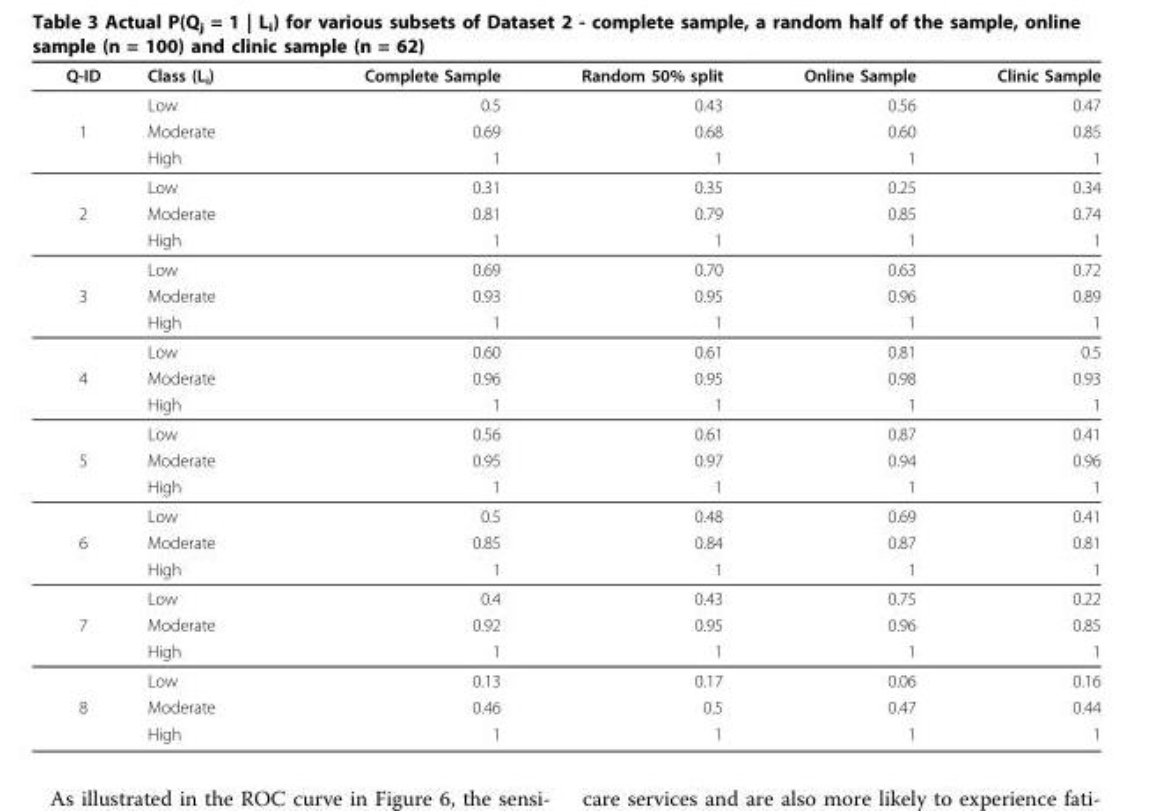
<table><thead><tr><td>Q-ID</td><td>Class (L<sub>i</sub>)</td><td>Complete Sample</td><td>Random 50% split</td><td>Online Sample</td><td>Clinic Sample</td></tr></thead><tbody><tr><td></td><td>Low</td><td>0.5</td><td>0.43</td><td>0.56</td><td>0.47</td></tr><tr><td rowspan="3">1</td><td>Moderate</td><td>0.69</td><td>0.68</td><td>0.60</td><td>0.85</td></tr><tr><td>High</td><td>1</td><td>1</td><td>1</td><td>1</td></tr><tr><td>Low</td><td>0.31</td><td>0.35</td><td>0.25</td><td>0.34</td></tr><tr><td rowspan="3">2</td><td>Moderate</td><td>0.81</td><td>0.79</td><td>0.85</td><td>0.74</td></tr><tr><td>High</td><td>1</td><td>1</td><td>1</td><td>1</td></tr><tr><td>Low</td><td>0.69</td><td>0.70</td><td>0.63</td><td>0.72</td></tr><tr><td rowspan="3">3</td><td>Moderate</td><td>0.93</td><td>0.95</td><td>0.96</td><td>0.89</td></tr><tr><td>High</td><td>1</td><td>1</td><td>1</td><td>1</td></tr><tr><td>Low</td><td>0.60</td><td>0.61</td><td>0.81</td><td>0.5</td></tr><tr><td rowspan="3">4</td><td>Moderate</td><td>0.96</td><td>0.95</td><td>0.98</td><td>0.93</td></tr><tr><td>High</td><td>1</td><td>1</td><td>1</td><td>1</td></tr><tr><td>Low</td><td>0.56</td><td>0.61</td><td>0.87</td><td>0.41</td></tr><tr><td rowspan="3">5</td><td>Moderate</td><td>0.95</td><td>0.97</td><td>0.94</td><td>0.96</td></tr><tr><td>High</td><td>1</td><td>1</td><td>1</td><td>1</td></tr><tr><td>Low</td><td>0.5</td><td>0.48</td><td>0.69</td><td>0.41</td></tr><tr><td rowspan="3">6</td><td>Moderate</td><td>0.85</td><td>0.84</td><td>0.87</td><td>0.81</td></tr><tr><td>High</td><td>1</td><td>1</td><td>1</td><td>1</td></tr><tr><td>Low</td><td>0.4</td><td>0.43</td><td>0.75</td><td>0.22</td></tr><tr><td rowspan="3">7</td><td>Moderate</td><td>0.92</td><td>0.95</td><td>0.96</td><td>0.85</td></tr><tr><td>High</td><td>1</td><td>1</td><td>1</td><td>1</td></tr><tr><td>Low</td><td>0.13</td><td>0.17</td><td>0.06</td><td>0.16</td></tr><tr><td rowspan="2">8</td><td>Moderate</td><td>0.46</td><td>0.5</td><td>0.47</td><td>0.44</td></tr><tr><td>High</td><td>1</td><td>1</td><td>1</td><td>1</td></tr></tbody></table>